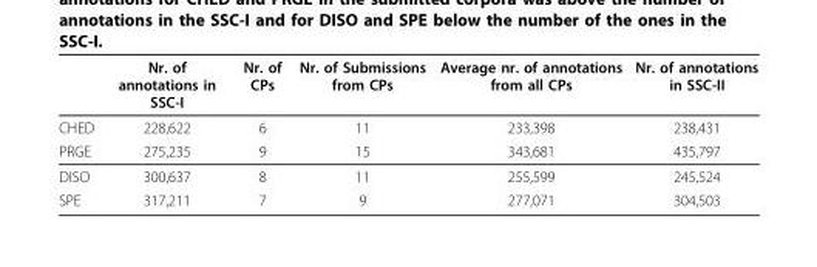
<table><thead><tr><td></td><td>Nr. of annotations in SSC-I</td><td>Nr. of CPs</td><td>Nr. of Submissions from CPs</td><td>Average nr. of annotations from all CPs</td><td>Nr. of annotations in SSC-II</td></tr></thead><tbody><tr><td>CHED</td><td>228,622</td><td>6</td><td>11</td><td>233,398</td><td>238,431</td></tr><tr><td>PRGE</td><td>275,235</td><td>9</td><td>15</td><td>343,681</td><td>435,797</td></tr><tr><td>DISO</td><td>300,637</td><td>8</td><td>11</td><td>255,599</td><td>245,524</td></tr><tr><td>SPE</td><td>317,211</td><td>7</td><td>9</td><td>277,071</td><td>304,503</td></tr></tbody></table>